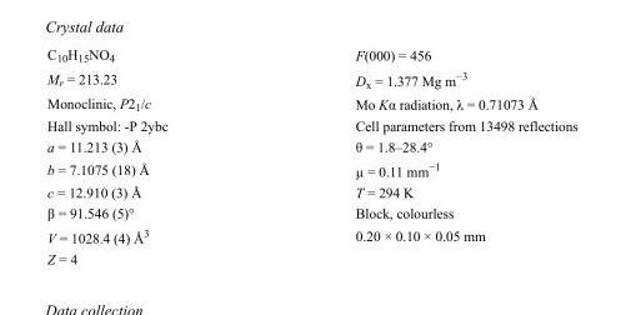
<table><tbody><tr><td>C<sub>10</sub>H<sub>15</sub>NO<sub>4</sub></td><td>F(000) = 456</td></tr><tr><td>M<sub>r</sub> = 213.23</td><td>D<sub>x</sub> = 1.377 Mg m<sup>−3</sup></td></tr><tr><td>Monoclinic, P2<sub>1</sub>/c</td><td>Mo Kα radiation, λ = 0.71073 Å</td></tr><tr><td>Hall symbol: -P 2ybc</td><td>Cell parameters from 13498 reflections</td></tr><tr><td>a = 11.213 (3) Å</td><td>θ = 1.8–28.4°</td></tr><tr><td>b = 7.1075 (18) Å</td><td>µ = 0.11 mm<sup>−1</sup></td></tr><tr><td>c = 12.910 (3) Å</td><td>T = 294 K</td></tr><tr><td>β = 91.546 (5)°</td><td>Block, colourless</td></tr><tr><td>V = 1028.4 (4) Å<sup>3</sup></td><td>0.20 × 0.10 × 0.05 mm</td></tr><tr><td>Z = 4</td><td></td></tr></tbody></table>